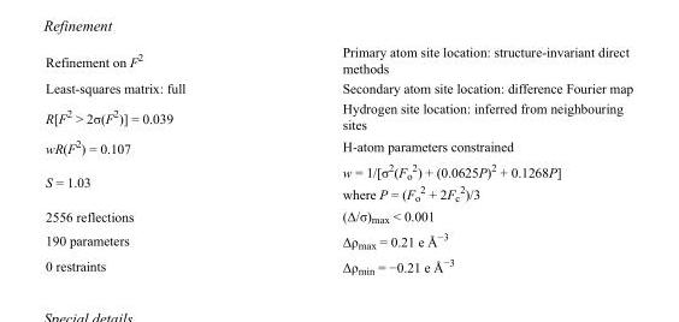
<table><tbody><tr><td>Refinement on F<sup>2</sup></td><td>Primary atom site location: structure-invariant direct methods</td></tr><tr><td>Least-squares matrix: full</td><td>Secondary atom site location: difference Fourier map</td></tr><tr><td>R[F<sup>2</sup> &gt; 2σ(F<sup>2</sup>)] = 0.039</td><td>Hydrogen site location: inferred from neighbouring sites</td></tr><tr><td>wR(F<sup>2</sup>) = 0.107</td><td>H-atom parameters constrained</td></tr><tr><td>S = 1.03</td><td>w = 1/[σ<sup>2</sup>(F<sub>o</sub> <sup>2</sup>) + (0.0625P)<sup>2</sup> + 0.1268P] where P = (F<sub>o</sub> <sup>2</sup> + 2F<sub>c</sub> <sup>2</sup>)/3</td></tr><tr><td>2556 reflections</td><td>(Δ/σ)<sub>max</sub> &lt; 0.001</td></tr><tr><td>190 parameters</td><td>Δρ<sub>max</sub> = 0.21 e Å<sup>−3</sup></td></tr><tr><td>0 restraints</td><td>Δρ<sub>min</sub> = −0.21 e Å<sup>−3</sup></td></tr></tbody></table>